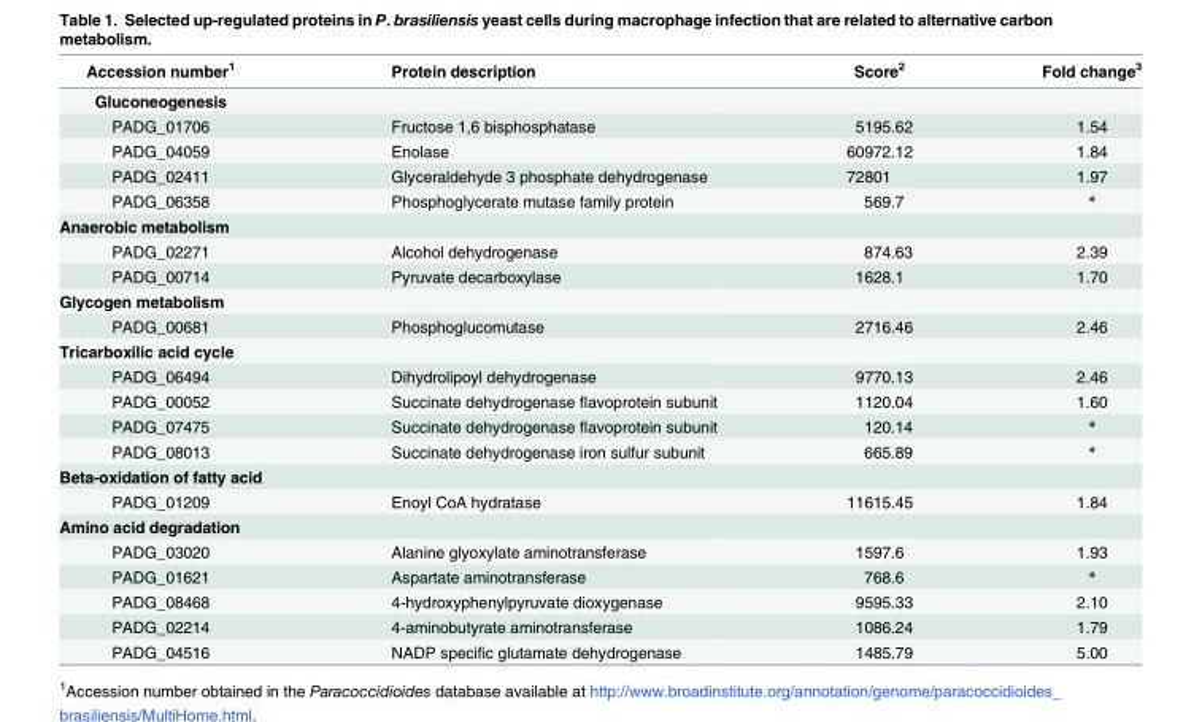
<table><thead><tr><td>Accession number<sup>1</sup></td><td>Protein description</td><td>Score<sup>2</sup></td><td>Fold change<sup>3</sup></td></tr></thead><tbody><tr><td colspan="4">Gluconeogenesis</td></tr><tr><td>PADG_01706</td><td>Fructose 1,6 bisphosphatase</td><td>5195.62</td><td>1.54</td></tr><tr><td>PADG_04059</td><td>Enolase</td><td>60972.12</td><td>1.84</td></tr><tr><td>PADG_02411</td><td>Glyceraldehyde 3 phosphate dehydrogenase</td><td>72801</td><td>1.97</td></tr><tr><td>PADG_06358</td><td>Phosphoglycerate mutase family protein</td><td>569.7</td><td>*</td></tr><tr><td colspan="4">Anaerobic metabolism</td></tr><tr><td>PADG_02271</td><td>Alcohol dehydrogenase</td><td>874.63</td><td>2.39</td></tr><tr><td>PADG_00714</td><td>Pyruvate decarboxylase</td><td>1628.1</td><td>1.70</td></tr><tr><td colspan="4">Glycogen metabolism</td></tr><tr><td>PADG_00681</td><td>Phosphoglucomutase</td><td>2716.46</td><td>2.46</td></tr><tr><td colspan="4">Tricarboxilic acid cycle</td></tr><tr><td>PADG_06494</td><td>Dihydrolipoyl dehydrogenase</td><td>9770.13</td><td>2.46</td></tr><tr><td>PADG_00052</td><td>Succinate dehydrogenase flavoprotein subunit</td><td>1120.04</td><td>1.60</td></tr><tr><td>PADG_07475</td><td>Succinate dehydrogenase flavoprotein subunit</td><td>120.14</td><td>*</td></tr><tr><td>PADG_08013</td><td>Succinate dehydrogenase iron sulfur subunit</td><td>665.89</td><td>*</td></tr><tr><td colspan="4">Beta-oxidation of fatty acid</td></tr><tr><td>PADG_01209</td><td>Enoyl CoA hydratase</td><td>11615.45</td><td>1.84</td></tr><tr><td colspan="4">Amino acid degradation</td></tr><tr><td>PADG_03020</td><td>Alanine glyoxylate aminotransferase</td><td>1597.6</td><td>1.93</td></tr><tr><td>PADG_01621</td><td>Aspartate aminotransferase</td><td>768.6</td><td>*</td></tr><tr><td>PADG_08468</td><td>4-hydroxyphenylpyruvate dioxygenase</td><td>9595.33</td><td>2.10</td></tr><tr><td>PADG_02214</td><td>4-aminobutyrate aminotransferase</td><td>1086.24</td><td>1.79</td></tr><tr><td>PADG_04516</td><td>NADP specific glutamate dehydrogenase</td><td>1485.79</td><td>5.00</td></tr></tbody></table>